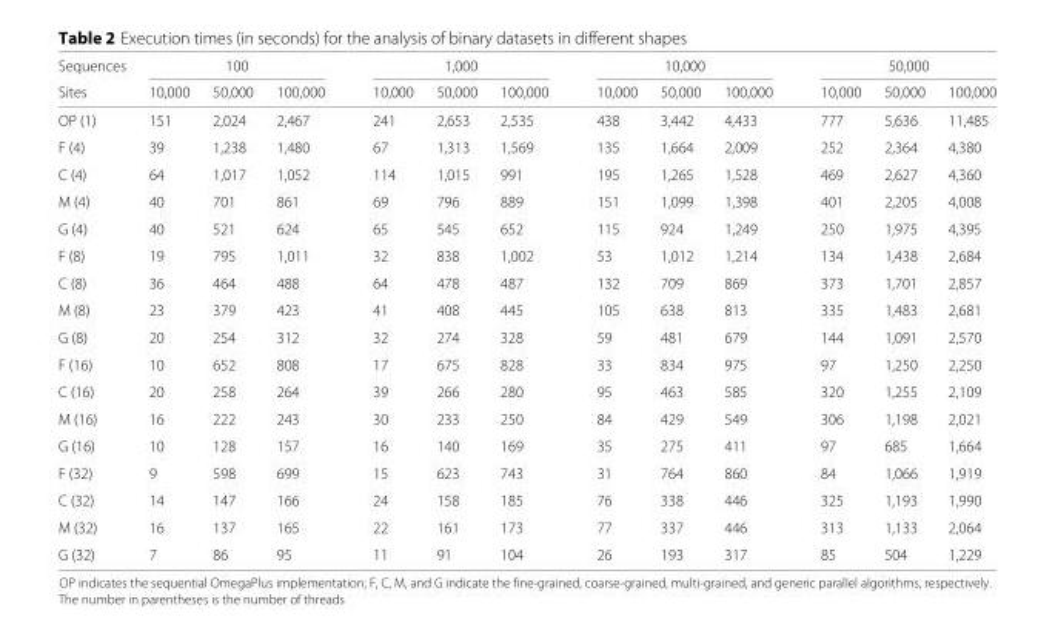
<table><thead><tr><td rowspan="2">Sequences Sites</td><td colspan="3">100</td><td colspan="3">1,000</td><td colspan="3">10,000</td><td colspan="3">50,000</td></tr><tr><td>10,000</td><td>50,000</td><td>100,000</td><td>10,000</td><td>50,000</td><td>100,000</td><td>10,000</td><td>50,000</td><td>100,000</td><td>10,000</td><td>50,000</td><td>100,000</td></tr></thead><tbody><tr><td>OP (1)</td><td>151</td><td>2,024</td><td>2,467</td><td>241</td><td>2,653</td><td>2,535</td><td>438</td><td>3,442</td><td>4,433</td><td>777</td><td>5,636</td><td>11,485</td></tr><tr><td>F (4)</td><td>39</td><td>1,238</td><td>1,480</td><td>67</td><td>1,313</td><td>1,569</td><td>135</td><td>1,664</td><td>2,009</td><td>252</td><td>2,364</td><td>4,380</td></tr><tr><td>C (4)</td><td>64</td><td>1,017</td><td>1,052</td><td>114</td><td>1,015</td><td>991</td><td>195</td><td>1,265</td><td>1,528</td><td>469</td><td>2,627</td><td>4,360</td></tr><tr><td>M (4)</td><td>40</td><td>701</td><td>861</td><td>69</td><td>796</td><td>889</td><td>151</td><td>1,099</td><td>1,398</td><td>401</td><td>2,205</td><td>4,008</td></tr><tr><td>G (4)</td><td>40</td><td>521</td><td>624</td><td>65</td><td>545</td><td>652</td><td>115</td><td>924</td><td>1,249</td><td>250</td><td>1,975</td><td>4,395</td></tr><tr><td>F (8)</td><td>19</td><td>795</td><td>1,011</td><td>32</td><td>838</td><td>1,002</td><td>53</td><td>1,012</td><td>1,214</td><td>134</td><td>1,438</td><td>2,684</td></tr><tr><td>C (8)</td><td>36</td><td>464</td><td>488</td><td>64</td><td>478</td><td>487</td><td>132</td><td>709</td><td>869</td><td>373</td><td>1,701</td><td>2,857</td></tr><tr><td>M (8)</td><td>23</td><td>379</td><td>423</td><td>41</td><td>408</td><td>445</td><td>105</td><td>638</td><td>813</td><td>335</td><td>1,483</td><td>2,681</td></tr><tr><td>G (8)</td><td>20</td><td>254</td><td>312</td><td>32</td><td>274</td><td>328</td><td>59</td><td>481</td><td>679</td><td>144</td><td>1,091</td><td>2,570</td></tr><tr><td>F (16)</td><td>10</td><td>652</td><td>808</td><td>17</td><td>675</td><td>828</td><td>33</td><td>834</td><td>975</td><td>97</td><td>1,250</td><td>2,250</td></tr><tr><td>C (16)</td><td>20</td><td>258</td><td>264</td><td>39</td><td>266</td><td>280</td><td>95</td><td>463</td><td>585</td><td>320</td><td>1,255</td><td>2,109</td></tr><tr><td>M (16)</td><td>16</td><td>222</td><td>243</td><td>30</td><td>233</td><td>250</td><td>84</td><td>429</td><td>549</td><td>306</td><td>1,198</td><td>2,021</td></tr><tr><td>G (16)</td><td>10</td><td>128</td><td>157</td><td>16</td><td>140</td><td>169</td><td>35</td><td>275</td><td>411</td><td>97</td><td>685</td><td>1,664</td></tr><tr><td>F (32)</td><td>9</td><td>598</td><td>699</td><td>15</td><td>623</td><td>743</td><td>31</td><td>764</td><td>860</td><td>84</td><td>1,066</td><td>1,919</td></tr><tr><td>C (32)</td><td>14</td><td>147</td><td>166</td><td>24</td><td>158</td><td>185</td><td>76</td><td>338</td><td>446</td><td>325</td><td>1,193</td><td>1,990</td></tr><tr><td>M (32)</td><td>16</td><td>137</td><td>165</td><td>22</td><td>161</td><td>173</td><td>77</td><td>337</td><td>446</td><td>313</td><td>1,133</td><td>2,064</td></tr><tr><td>G (32)</td><td>7</td><td>86</td><td>95</td><td>11</td><td>91</td><td>104</td><td>26</td><td>193</td><td>317</td><td>85</td><td>504</td><td>1,229</td></tr></tbody></table>